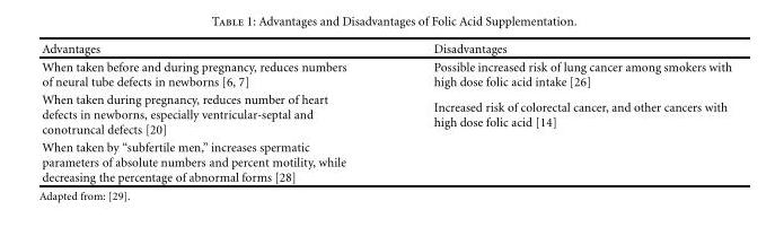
<table><thead><tr><td>Advantages</td><td>Disadvantages</td></tr></thead><tbody><tr><td>When taken before and during pregnancy, reduces numbers of neural tube defects in newborns [6, 7]</td><td>Possible increased risk of lung cancer among smokers with high dose folic acid intake [26]</td></tr><tr><td>When taken during pregnancy, reduces number of heart defects in newborns, especially ventricular-septal and conotruncal defects [20]</td><td>Increased risk of colorectal cancer, and other cancers with high dose folic acid [14]</td></tr><tr><td>When taken by “subfertile men,” increases spermatic parameters of absolute numbers and percent motility, while decreasing the percentage of abnormal forms [28]</td><td></td></tr></tbody></table>